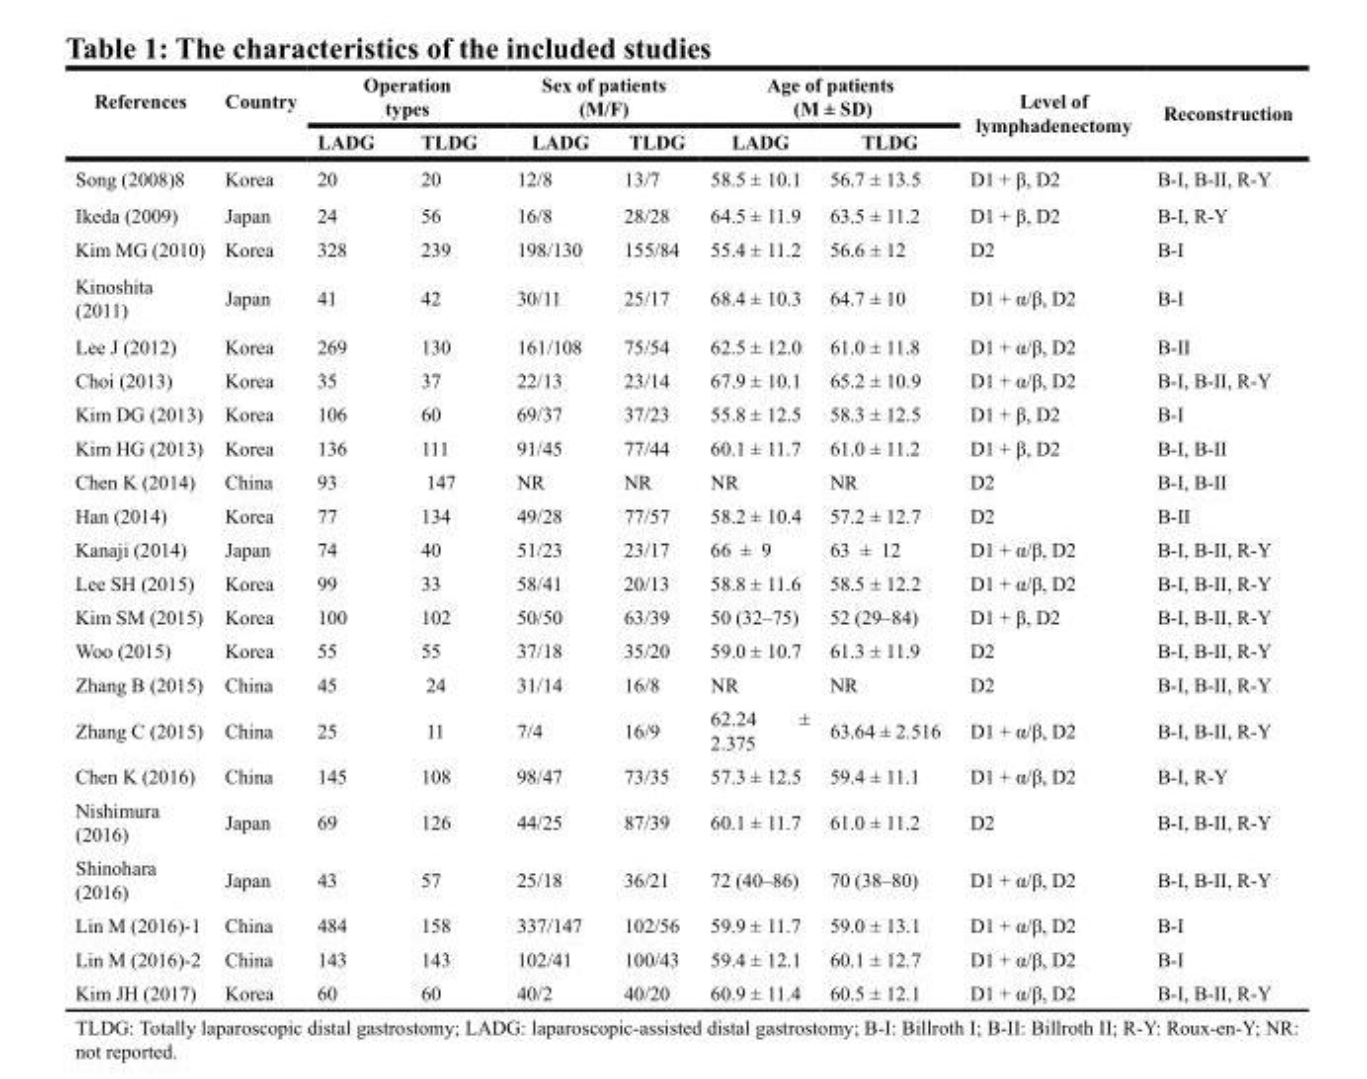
<table><thead><tr><td rowspan="2">References</td><td rowspan="2">Country</td><td colspan="2">Operation types</td><td colspan="2">Sex of patients (M/F)</td><td colspan="2">Age of patients (M ± SD)</td><td rowspan="2">Level of lymphadenectomy</td><td rowspan="2">Reconstruction</td></tr><tr><td>LADG</td><td>TLDG</td><td>LADG</td><td>TLDG</td><td>LADG</td><td>TLDG</td></tr></thead><tbody><tr><td>Song (2008)8</td><td>Korea</td><td>20</td><td>20</td><td>12/8</td><td>13/7</td><td>58.5 ± 10.1</td><td>56.7 ± 13.5</td><td>D1 + β, D2</td><td>B-I, B-II, R-Y</td></tr><tr><td>Ikeda (2009)</td><td>Japan</td><td>24</td><td>56</td><td>16/8</td><td>28/28</td><td>64.5 ± 11.9</td><td>63.5 ± 11.2</td><td>D1 + β, D2</td><td>B-I, R-Y</td></tr><tr><td>Kim MG (2010)</td><td>Korea</td><td>328</td><td>239</td><td>198/130</td><td>155/84</td><td>55.4 ± 11.2</td><td>56.6 ± 12</td><td>D2</td><td>B-I</td></tr><tr><td>Kinoshita (2011)</td><td>Japan</td><td>41</td><td>42</td><td>30/11</td><td>25/17</td><td>68.4 ± 10.3</td><td>64.7 ± 10</td><td>D1 + α/β, D2</td><td>B-I</td></tr><tr><td>Lee J (2012)</td><td>Korea</td><td>269</td><td>130</td><td>161/108</td><td>75/54</td><td>62.5 ± 12.0</td><td>61.0 ± 11.8</td><td>D1 + α/β, D2</td><td>B-II</td></tr><tr><td>Choi (2013)</td><td>Korea</td><td>35</td><td>37</td><td>22/13</td><td>23/14</td><td>67.9 ± 10.1</td><td>65.2 ± 10.9</td><td>D1 + α/β, D2</td><td>B-I, B-II, R-Y</td></tr><tr><td>Kim DG (2013)</td><td>Korea</td><td>106</td><td>60</td><td>69/37</td><td>37/23</td><td>55.8 ± 12.5</td><td>58.3 ± 12.5</td><td>D1 + β, D2</td><td>B-I</td></tr><tr><td>Kim HG (2013)</td><td>Korea</td><td>136</td><td>111</td><td>91/45</td><td>77/44</td><td>60.1 ± 11.7</td><td>61.0 ± 11.2</td><td>D1 + β, D2</td><td>B-I, B-II</td></tr><tr><td>Chen K (2014)</td><td>China</td><td>93</td><td>147</td><td>NR</td><td>NR</td><td>NR</td><td>NR</td><td>D2</td><td>B-I, B-II</td></tr><tr><td>Han (2014)</td><td>Korea</td><td>77</td><td>134</td><td>49/28</td><td>77/57</td><td>58.2 ± 10.4</td><td>57.2 ± 12.7</td><td>D2</td><td>B-II</td></tr><tr><td>Kanaji (2014)</td><td>Japan</td><td>74</td><td>40</td><td>51/23</td><td>23/17</td><td>66 ± 9</td><td>63 ± 12</td><td>D1 + α/β, D2</td><td>B-I, B-II, R-Y</td></tr><tr><td>Lee SH (2015)</td><td>Korea</td><td>99</td><td>33</td><td>58/41</td><td>20/13</td><td>58.8 ± 11.6</td><td>58.5 ± 12.2</td><td>D1 + α/β, D2</td><td>B-I, B-II, R-Y</td></tr><tr><td>Kim SM (2015)</td><td>Korea</td><td>100</td><td>102</td><td>50/50</td><td>63/39</td><td>50 (32–75)</td><td>52 (29–84)</td><td>D1 + β, D2</td><td>B-I, B-II, R-Y</td></tr><tr><td>Woo (2015)</td><td>Korea</td><td>55</td><td>55</td><td>37/18</td><td>35/20</td><td>59.0 ± 10.7</td><td>61.3 ± 11.9</td><td>D2</td><td>B-I, B-II, R-Y</td></tr><tr><td>Zhang B (2015)</td><td>China</td><td>45</td><td>24</td><td>31/14</td><td>16/8</td><td>NR</td><td>NR</td><td>D2</td><td>B-I, B-II, R-Y</td></tr><tr><td>Zhang C (2015)</td><td>China</td><td>25</td><td>11</td><td>7/4</td><td>16/9</td><td>62.24 ± 2.375</td><td>63.64 ± 2.516</td><td>D1 + α/β, D2</td><td>B-I, B-II, R-Y</td></tr><tr><td>Chen K (2016)</td><td>China</td><td>145</td><td>108</td><td>98/47</td><td>73/35</td><td>57.3 ± 12.5</td><td>59.4 ± 11.1</td><td>D1 + α/β, D2</td><td>B-I, R-Y</td></tr><tr><td>Nishimura (2016)</td><td>Japan</td><td>69</td><td>126</td><td>44/25</td><td>87/39</td><td>60.1 ± 11.7</td><td>61.0 ± 11.2</td><td>D2</td><td>B-I, B-II, R-Y</td></tr><tr><td>Shinohara (2016)</td><td>Japan</td><td>43</td><td>57</td><td>25/18</td><td>36/21</td><td>72 (40–86)</td><td>70 (38–80)</td><td>D1 + α/β, D2</td><td>B-I, B-II, R-Y</td></tr><tr><td>Lin M (2016)-1</td><td>China</td><td>484</td><td>158</td><td>337/147</td><td>102/56</td><td>59.9 ± 11.7</td><td>59.0 ± 13.1</td><td>D1 + α/β, D2</td><td>B-I</td></tr><tr><td>Lin M (2016)-2</td><td>China</td><td>143</td><td>143</td><td>102/41</td><td>100/43</td><td>59.4 ± 12.1</td><td>60.1 ± 12.7</td><td>D1 + α/β, D2</td><td>B-I</td></tr><tr><td>Kim JH (2017)</td><td>Korea</td><td>60</td><td>60</td><td>40/2</td><td>40/20</td><td>60.9 ± 11.4</td><td>60.5 ± 12.1</td><td>D1 + α/β, D2</td><td>B-I, B-II, R-Y</td></tr></tbody></table>